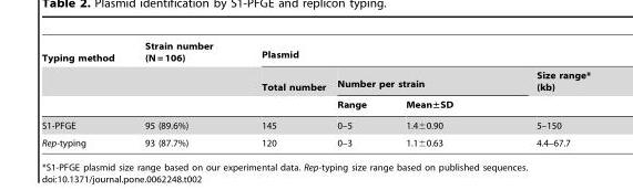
<table><thead><tr><td rowspan="3">Typing method</td><td rowspan="3">Strain number (N = 106)</td><td colspan="4">Plasmid</td></tr><tr><td rowspan="2">Total number</td><td colspan="2">Number per strain</td><td rowspan="2">Size range* (kb)</td></tr><tr><td>Range</td><td>Mean±SD</td></tr></thead><tbody><tr><td>S1-PFGE</td><td>95 (89.6%)</td><td>145</td><td>0–5</td><td>1.4±0.90</td><td>5–150</td></tr><tr><td>Rep-typing</td><td>93 (87.7%)</td><td>120</td><td>0–3</td><td>1.1±0.63</td><td>4.4–67.7</td></tr></tbody></table>